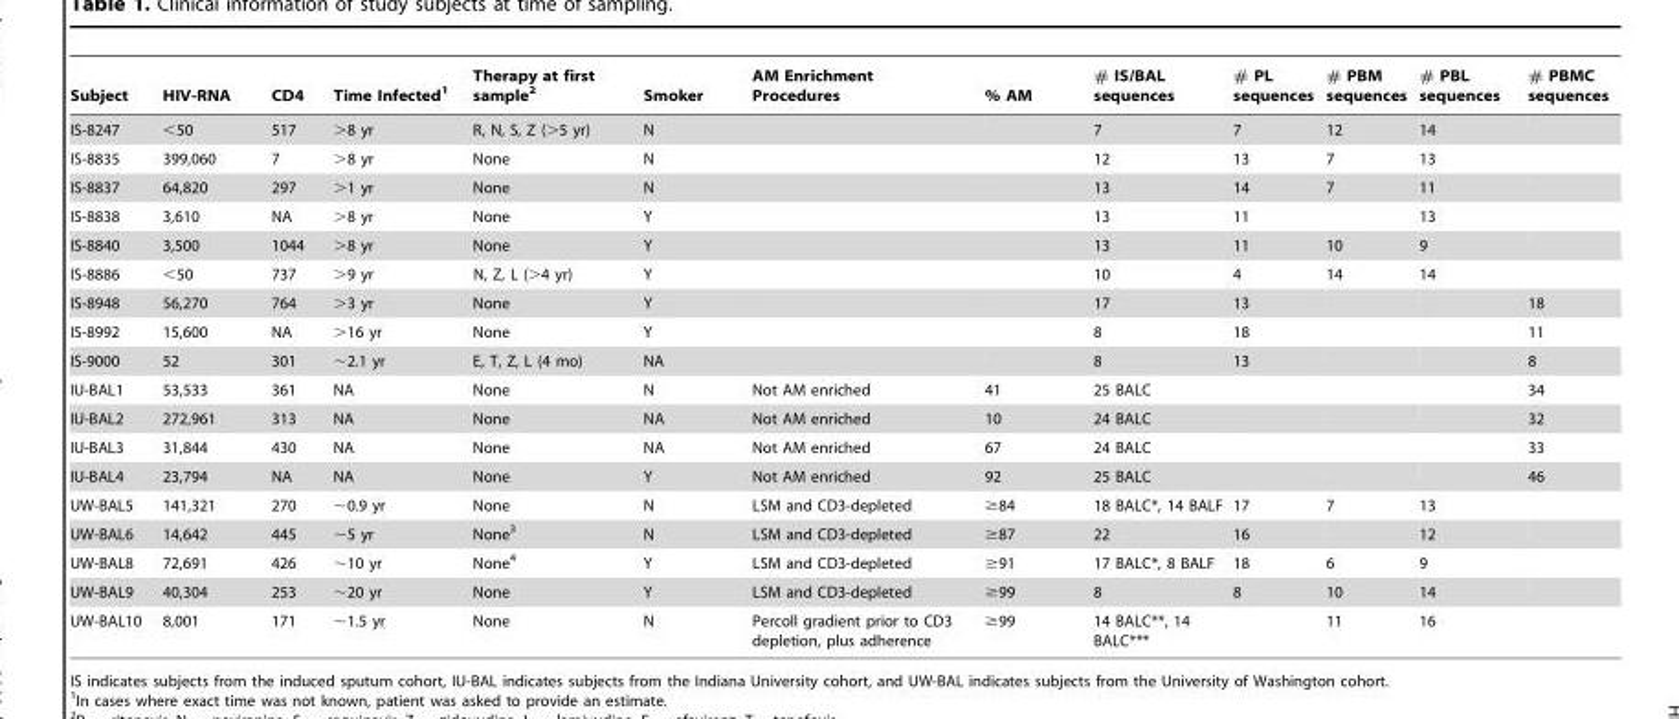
<table><thead><tr><td>Subject</td><td>HIV-RNA</td><td>CD4</td><td>Time Infected<sup>1</sup></td><td>Therapy at first sample<sup>2</sup></td><td>Smoker</td><td>AM Enrichment Procedures</td><td>% AM</td><td># IS/BAL sequences</td><td># PL sequences</td><td># PBM sequences</td><td># PBL sequences</td><td># PBMC sequences</td></tr></thead><tbody><tr><td>IS-8247</td><td>&lt;50</td><td>517</td><td>&gt;8 yr</td><td>R, N, S, Z (&gt;5 yr)</td><td>N</td><td></td><td></td><td>7</td><td>7</td><td>12</td><td>14</td><td></td></tr><tr><td>IS-8835</td><td>399,060</td><td>7</td><td>&gt;8 yr</td><td>None</td><td>N</td><td></td><td></td><td>12</td><td>13</td><td>7</td><td>13</td><td></td></tr><tr><td>IS-8837</td><td>64,820</td><td>297</td><td>&gt;1 yr</td><td>None</td><td>N</td><td></td><td></td><td>13</td><td>14</td><td>7</td><td>11</td><td></td></tr><tr><td>IS-8838</td><td>3,610</td><td>NA</td><td>&gt;8 yr</td><td>None</td><td>Y</td><td></td><td></td><td>13</td><td>11</td><td></td><td>13</td><td></td></tr><tr><td>IS-8840</td><td>3,500</td><td>1044</td><td>&gt;8 yr</td><td>None</td><td>Y</td><td></td><td></td><td>13</td><td>11</td><td>10</td><td>9</td><td></td></tr><tr><td>IS-8886</td><td>&lt;50</td><td>737</td><td>&gt;9 yr</td><td>N, Z, L (&gt;4 yr)</td><td>Y</td><td></td><td></td><td>10</td><td>4</td><td>14</td><td>14</td><td></td></tr><tr><td>IS-8948</td><td>56,270</td><td>764</td><td>&gt;3 yr</td><td>None</td><td>Y</td><td></td><td></td><td>17</td><td>13</td><td></td><td></td><td>18</td></tr><tr><td>IS-8992</td><td>15,600</td><td>NA</td><td>&gt;16 yr</td><td>None</td><td>Y</td><td></td><td></td><td>8</td><td>18</td><td></td><td></td><td>11</td></tr><tr><td>IS-9000</td><td>52</td><td>301</td><td>∼2.1 yr</td><td>E, T, Z, L (4 mo)</td><td>NA</td><td></td><td></td><td>8</td><td>13</td><td></td><td></td><td>8</td></tr><tr><td>IU-BAL1</td><td>53,533</td><td>361</td><td>NA</td><td>None</td><td>N</td><td>Not AM enriched</td><td>41</td><td>25 BALC</td><td></td><td></td><td></td><td>34</td></tr><tr><td>IU-BAL2</td><td>272,961</td><td>313</td><td>NA</td><td>None</td><td>NA</td><td>Not AM enriched</td><td>10</td><td>24 BALC</td><td></td><td></td><td></td><td>32</td></tr><tr><td>IU-BAL3</td><td>31,844</td><td>430</td><td>NA</td><td>None</td><td>NA</td><td>Not AM enriched</td><td>67</td><td>24 BALC</td><td></td><td></td><td></td><td>33</td></tr><tr><td>IU-BAL4</td><td>23,794</td><td>NA</td><td>NA</td><td>None</td><td>Y</td><td>Not AM enriched</td><td>92</td><td>25 BALC</td><td></td><td></td><td></td><td>46</td></tr><tr><td>UW-BAL5</td><td>141,321</td><td>270</td><td>∼0.9 yr</td><td>None</td><td>N</td><td>LSM and CD3-depleted</td><td>≥84</td><td>18 BALC*, 14 BALF</td><td>17</td><td>7</td><td>13</td><td></td></tr><tr><td>UW-BAL6</td><td>14,642</td><td>445</td><td>∼5 yr</td><td>None<sup>3</sup></td><td>N</td><td>LSM and CD3-depleted</td><td>≥87</td><td>22</td><td>16</td><td></td><td>12</td><td></td></tr><tr><td>UW-BAL8</td><td>72,691</td><td>426</td><td>∼10 yr</td><td>None<sup>4</sup></td><td>Y</td><td>LSM and CD3-depleted</td><td>≥91</td><td>17 BALC*, 8 BALF</td><td>18</td><td>6</td><td>9</td><td></td></tr><tr><td>UW-BAL9</td><td>40,304</td><td>253</td><td>∼20 yr</td><td>None</td><td>Y</td><td>LSM and CD3-depleted</td><td>≥99</td><td>8</td><td>8</td><td>10</td><td>14</td><td></td></tr><tr><td>UW-BAL10</td><td>8,001</td><td>171</td><td>∼1.5 yr</td><td>None</td><td>N</td><td>Percoll gradient prior to CD3 depletion, plus adherence</td><td>≥99</td><td>14 BALC**, 14 BALC***</td><td></td><td>11</td><td>16</td><td></td></tr></tbody></table>